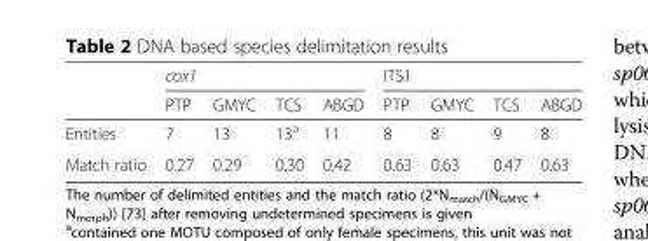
<table><thead><tr><td rowspan="2"></td><td colspan="4">cox1</td><td colspan="4">ITS1</td></tr><tr><td>PTP</td><td>GMYC</td><td>TCS</td><td>ABGD</td><td>PTP</td><td>GMYC</td><td>TCS</td><td>ABGD</td></tr></thead><tbody><tr><td>Entities</td><td>7</td><td>13</td><td>13<sup>a</sup></td><td>11</td><td>8</td><td>8</td><td>9</td><td>8</td></tr><tr><td>Match ratio</td><td>0.27</td><td>0.29</td><td>0.30</td><td>0.42</td><td>0.63</td><td>0.63</td><td>0.47</td><td>0.63</td></tr></tbody></table>